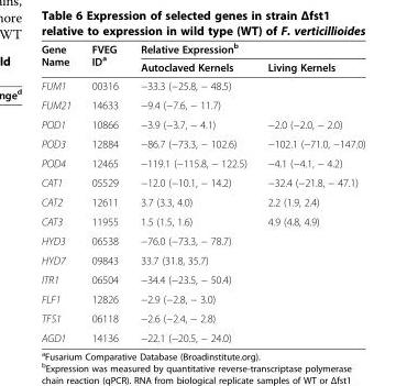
<table><thead><tr><td rowspan="2">Gene Name</td><td rowspan="2">FVEG ID<sup>a</sup></td><td colspan="2">Relative Expression<sup>b</sup></td></tr><tr><td>Autoclaved Kernels</td><td>Living Kernels</td></tr></thead><tbody><tr><td>FUM1</td><td>00316</td><td>−33.3 (−25.8, − 48.5)</td><td></td></tr><tr><td>FUM21</td><td>14633</td><td>−9.4 (−7.6, − 11.7)</td><td></td></tr><tr><td>POD1</td><td>10866</td><td>−3.9 (−3.7, − 4.1)</td><td>−2.0 (−2.0, − 2.0)</td></tr><tr><td>POD3</td><td>12884</td><td>−86.7 (−73.3, − 102.6)</td><td>−102.1 (−71.0, −147.0)</td></tr><tr><td>POD4</td><td>12465</td><td>−119.1 (−115.8, − 122.5)</td><td>−4.1 (−4.1, − 4.2)</td></tr><tr><td>CAT1</td><td>05529</td><td>−12.0 (−10.1, − 14.2)</td><td>−32.4 (−21.8, − 47.1)</td></tr><tr><td>CAT2</td><td>12611</td><td>3.7 (3.3, 4.0)</td><td>2.2 (1.9, 2.4)</td></tr><tr><td>CAT3</td><td>11955</td><td>1.5 (1.5, 1.6)</td><td>4.9 (4.8, 4.9)</td></tr><tr><td>HYD3</td><td>06538</td><td>−76.0 (−73.3, − 78.7)</td><td></td></tr><tr><td>HYD7</td><td>09843</td><td>33.7 (31.8, 35.7)</td><td></td></tr><tr><td>ITR1</td><td>06504</td><td>−34.4 (−23.5, − 50.4)</td><td></td></tr><tr><td>FLF1</td><td>12826</td><td>−2.9 (−2.8, − 3.0)</td><td></td></tr><tr><td>TFS1</td><td>06118</td><td>−2.6 (−2.4, − 2.8)</td><td></td></tr><tr><td>AGD1</td><td>14136</td><td>−22.1 (−20.5, − 24.0)</td><td></td></tr></tbody></table>